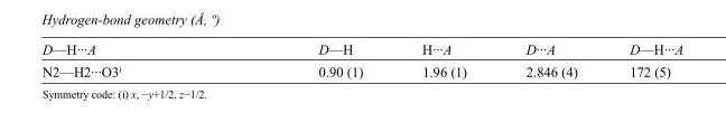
<table><tbody><tr><td>D—H···A</td><td>D—H</td><td>H···A</td><td>D···A</td><td>D—H···A</td></tr><tr><td>N2—H2···O3<sup>i</sup></td><td>0.90 (1)</td><td>1.96 (1)</td><td>2.846 (4)</td><td>172 (5)</td></tr></tbody></table>